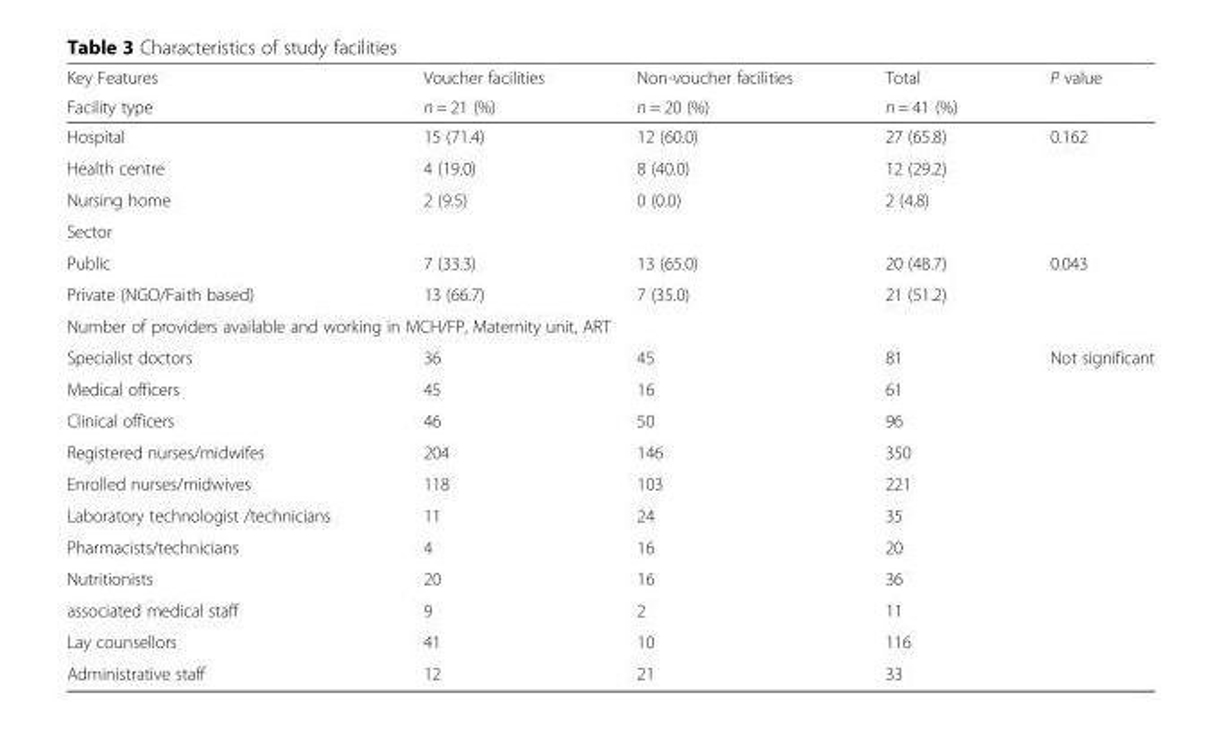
<table><thead><tr><td rowspan="2">Key Features Facility type</td><td rowspan="2">Voucher facilities n = 21 (%)</td><td rowspan="2">Non-voucher facilities n = 20 (%)</td><td rowspan="2">Total n = 41 (%)</td><td rowspan="2">P value</td></tr><tr></tr></thead><tbody><tr><td>Hospital</td><td>15 (71.4)</td><td>12 (60.0)</td><td>27 (65.8)</td><td rowspan="3">0.162</td></tr><tr><td>Health centre</td><td>4 (19.0)</td><td>8 (40.0)</td><td>12 (29.2)</td></tr><tr><td>Nursing home</td><td>2 (9.5)</td><td>0 (0.0)</td><td>2 (4.8)</td></tr><tr><td colspan="5">Sector</td></tr><tr><td>Public</td><td>7 (33.3)</td><td>13 (65.0)</td><td>20 (48.7)</td><td>0.043</td></tr><tr><td>Private (NGO/Faith based)</td><td>13 (66.7)</td><td>7 (35.0)</td><td>21 (51.2)</td><td></td></tr><tr><td colspan="5">Number of providers available and working in MCH/FP, Maternity unit, ART</td></tr><tr><td>Specialist doctors</td><td>36</td><td>45</td><td>81</td><td rowspan="10">Not significant</td></tr><tr><td>Medical officers</td><td>45</td><td>16</td><td>61</td></tr><tr><td>Clinical officers</td><td>46</td><td>50</td><td>96</td></tr><tr><td>Registered nurses/midwifes</td><td>204</td><td>146</td><td>350</td></tr><tr><td>Enrolled nurses/midwives</td><td>118</td><td>103</td><td>221</td></tr><tr><td>Laboratory technologist /technicians</td><td>11</td><td>24</td><td>35</td></tr><tr><td>Pharmacists/technicians</td><td>4</td><td>16</td><td>20</td></tr><tr><td>Nutritionists</td><td>20</td><td>16</td><td>36</td></tr><tr><td>associated medical staff</td><td>9</td><td>2</td><td>11</td></tr><tr><td>Lay counsellors</td><td>41</td><td>10</td><td>116</td></tr><tr><td>Administrative staff</td><td>12</td><td>21</td><td>33</td><td></td></tr></tbody></table>